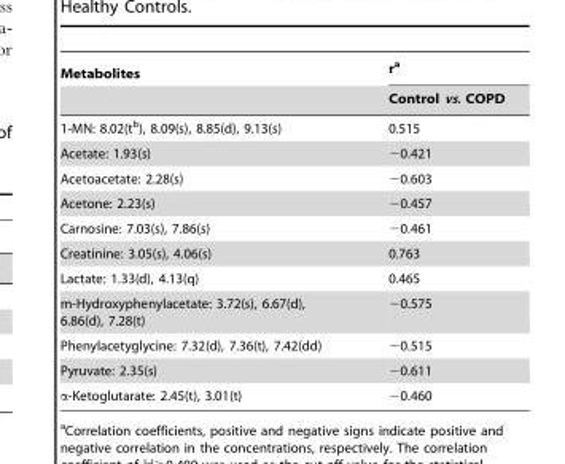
<table><thead><tr><td rowspan="2">Metabolites</td><td rowspan="2">r<sup>a</sup> Control vs. COPD</td></tr><tr></tr></thead><tbody><tr><td>1-MN: 8.02(t<sup>b</sup>), 8.09(s), 8.85(d), 9.13(s)</td><td>0.515</td></tr><tr><td>Acetate: 1.93(s)</td><td>−0.421</td></tr><tr><td>Acetoacetate: 2.28(s)</td><td>−0.603</td></tr><tr><td>Acetone: 2.23(s)</td><td>−0.457</td></tr><tr><td>Carnosine: 7.03(s), 7.86(s)</td><td>−0.461</td></tr><tr><td>Creatinine: 3.05(s), 4.06(s)</td><td>0.763</td></tr><tr><td>Lactate: 1.33(d), 4.13(q)</td><td>0.465</td></tr><tr><td>m-Hydroxyphenylacetate: 3.72(s), 6.67(d), 6.86(d), 7.28(t)</td><td>−0.575</td></tr><tr><td>Phenylacetyglycine: 7.32(d), 7.36(t), 7.42(dd)</td><td>−0.515</td></tr><tr><td>Pyruvate: 2.35(s)</td><td>−0.611</td></tr><tr><td>α-Ketoglutarate: 2.45(t), 3.01(t)</td><td>−0.460</td></tr></tbody></table>